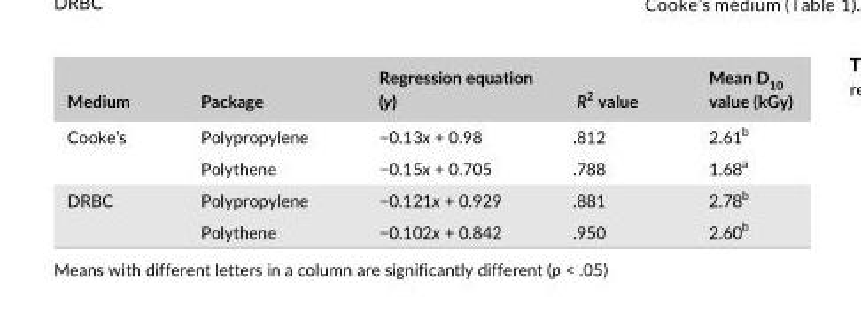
<table><thead><tr><td>Medium</td><td>Package</td><td>Regression equation (y)</td><td>R<sup>2</sup> value</td><td>Mean D<sub>10</sub> value (kGy)</td></tr></thead><tbody><tr><td rowspan="2">Cooke’s</td><td>Polypropylene</td><td>−0.13x + 0.98</td><td>.812</td><td>2.61<sup>b</sup></td></tr><tr><td>Polythene</td><td>−0.15x + 0.705</td><td>.788</td><td>1.68<sup>a</sup></td></tr><tr><td rowspan="2">DRBC</td><td>Polypropylene</td><td>−0.121x + 0.929</td><td>.881</td><td>2.78<sup>b</sup></td></tr><tr><td>Polythene</td><td>−0.102x + 0.842</td><td>.950</td><td>2.60<sup>b</sup></td></tr></tbody></table>